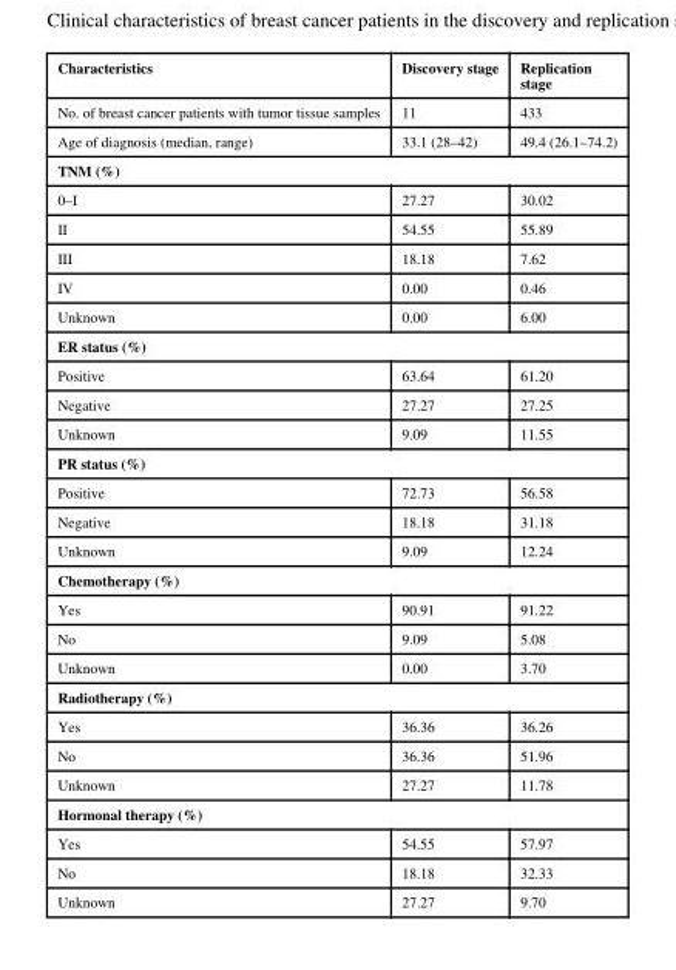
<table><thead><tr><td>Characteristics</td><td>Discovery stage</td><td>Replication stage</td></tr></thead><tbody><tr><td>No. of breast cancer patients with tumor tissue samples</td><td>11</td><td>433</td></tr><tr><td>Age of diagnosis (median, range)</td><td>33.1 (28–42)</td><td>49.4 (26.1–74.2)</td></tr><tr><td colspan="3">TNM (%)</td></tr><tr><td>0–I</td><td>27.27</td><td>30.02</td></tr><tr><td>II</td><td>54.55</td><td>55.89</td></tr><tr><td>III</td><td>18.18</td><td>7.62</td></tr><tr><td>IV</td><td>0.00</td><td>0.46</td></tr><tr><td>Unknown</td><td>0.00</td><td>6.00</td></tr><tr><td colspan="3">ER status (%)</td></tr><tr><td>Positive</td><td>63.64</td><td>61.20</td></tr><tr><td>Negative</td><td>27.27</td><td>27.25</td></tr><tr><td>Unknown</td><td>9.09</td><td>11.55</td></tr><tr><td colspan="3">PR status (%)</td></tr><tr><td>Positive</td><td>72.73</td><td>56.58</td></tr><tr><td>Negative</td><td>18.18</td><td>31.18</td></tr><tr><td>Unknown</td><td>9.09</td><td>12.24</td></tr><tr><td colspan="3">Chemotherapy (%)</td></tr><tr><td>Yes</td><td>90.91</td><td>91.22</td></tr><tr><td>No</td><td>9.09</td><td>5.08</td></tr><tr><td>Unknown</td><td>0.00</td><td>3.70</td></tr><tr><td colspan="3">Radiotherapy (%)</td></tr><tr><td>Yes</td><td>36.36</td><td>36.26</td></tr><tr><td>No</td><td>36.36</td><td>51.96</td></tr><tr><td>Unknown</td><td>27.27</td><td>11.78</td></tr><tr><td colspan="3">Hormonal therapy (%)</td></tr><tr><td>Yes</td><td>54.55</td><td>57.97</td></tr><tr><td>No</td><td>18.18</td><td>32.33</td></tr><tr><td>Unknown</td><td>27.27</td><td>9.70</td></tr></tbody></table>